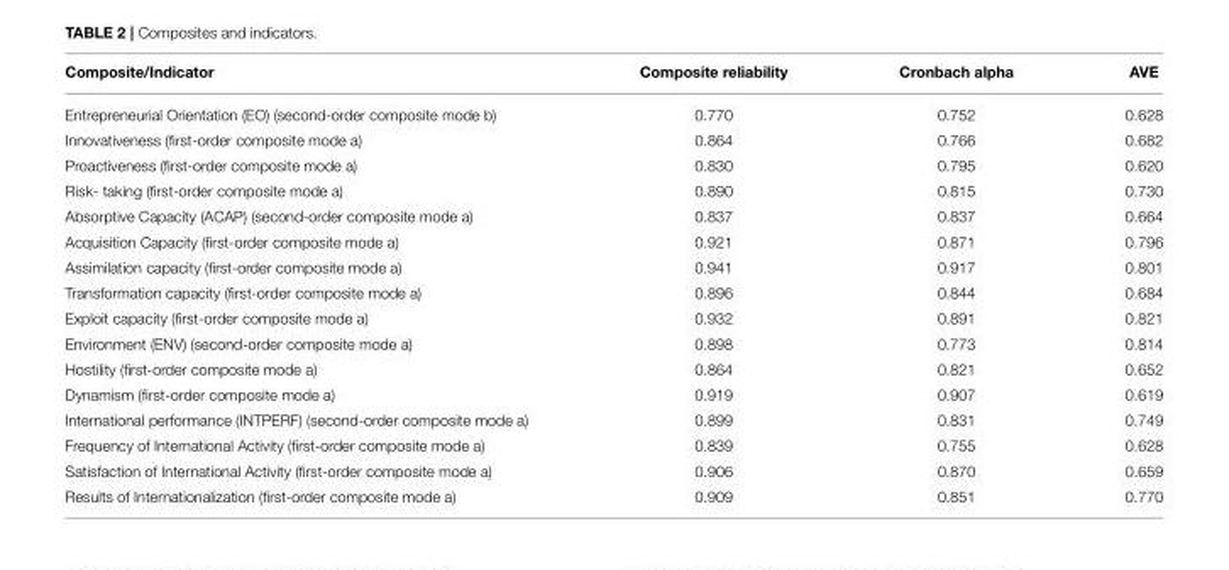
<table><thead><tr><td>Composite/Indicator</td><td>Composite reliability</td><td>Cronbach alpha</td><td>AVE</td></tr></thead><tbody><tr><td>Entrepreneurial Orientation (EO) (second-order composite mode b)</td><td>0.770</td><td>0.752</td><td>0.628</td></tr><tr><td>Innovativeness (first-order composite mode a)</td><td>0.864</td><td>0.766</td><td>0.682</td></tr><tr><td>Proactiveness (first-order composite mode a)</td><td>0.830</td><td>0.795</td><td>0.620</td></tr><tr><td>Risk- taking (first-order composite mode a)</td><td>0.890</td><td>0.815</td><td>0.730</td></tr><tr><td>Absorptive Capacity (ACAP) (second-order composite mode a)</td><td>0.837</td><td>0.837</td><td>0.664</td></tr><tr><td>Acquisition Capacity (first-order composite mode a)</td><td>0.921</td><td>0.871</td><td>0.796</td></tr><tr><td>Assimilation capacity (first-order composite mode a)</td><td>0.941</td><td>0.917</td><td>0.801</td></tr><tr><td>Transformation capacity (first-order composite mode a)</td><td>0.896</td><td>0.844</td><td>0.684</td></tr><tr><td>Exploit capacity (first-order composite mode a)</td><td>0.932</td><td>0.891</td><td>0.821</td></tr><tr><td>Environment (ENV) (second-order composite mode a)</td><td>0.898</td><td>0.773</td><td>0.814</td></tr><tr><td>Hostility (first-order composite mode a)</td><td>0.864</td><td>0.821</td><td>0.652</td></tr><tr><td>Dynamism (first-order composite mode a)</td><td>0.919</td><td>0.907</td><td>0.619</td></tr><tr><td>International performance (INTPERF) (second-order composite mode a)</td><td>0.899</td><td>0.831</td><td>0.749</td></tr><tr><td>Frequency of International Activity (first-order composite mode a)</td><td>0.839</td><td>0.755</td><td>0.628</td></tr><tr><td>Satisfaction of International Activity (first-order composite mode a)</td><td>0.906</td><td>0.870</td><td>0.659</td></tr><tr><td>Results of Internationalization (first-order composite mode a)</td><td>0.909</td><td>0.851</td><td>0.770</td></tr></tbody></table>